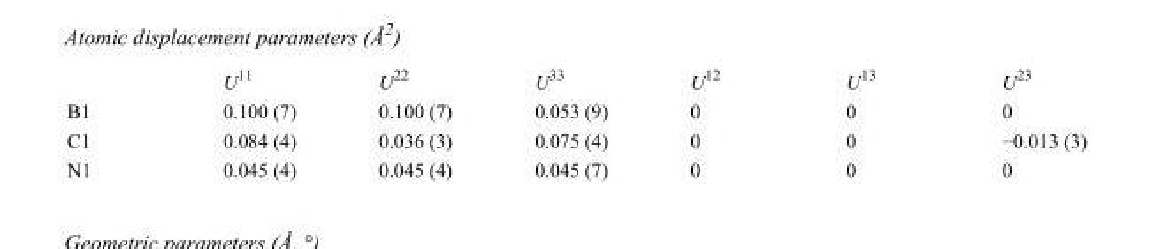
<table><thead><tr><td></td><td>U<sup>11</sup></td><td>U<sup>22</sup></td><td>U<sup>33</sup></td><td>U<sup>12</sup></td><td>U<sup>13</sup></td><td>U<sup>23</sup></td></tr></thead><tbody><tr><td>B1</td><td>0.100 (7)</td><td>0.100 (7)</td><td>0.053 (9)</td><td>0</td><td>0</td><td>0</td></tr><tr><td>C1</td><td>0.084 (4)</td><td>0.036 (3)</td><td>0.075 (4)</td><td>0</td><td>0</td><td>−0.013 (3)</td></tr><tr><td>N1</td><td>0.045 (4)</td><td>0.045 (4)</td><td>0.045 (7)</td><td>0</td><td>0</td><td>0</td></tr></tbody></table>